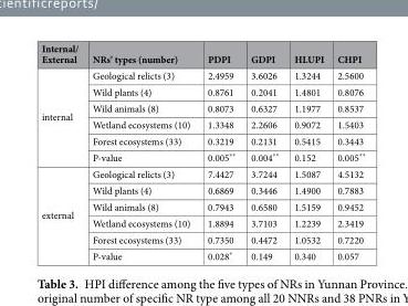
<table><thead><tr><td>Internal/ External</td><td>NRs’ types (number)</td><td>PDPI</td><td>GDPI</td><td>HLUPI</td><td>CHPI</td></tr></thead><tbody><tr><td rowspan="6">internal</td><td>Geological relicts (3)</td><td>2.4959</td><td>3.6026</td><td>1.3244</td><td>2.5600</td></tr><tr><td>Wild plants (4)</td><td>0.8761</td><td>0.2041</td><td>1.4801</td><td>0.8076</td></tr><tr><td>Wild animals (8)</td><td>0.8073</td><td>0.6327</td><td>1.1977</td><td>0.8537</td></tr><tr><td>Wetland ecosystems (10)</td><td>1.3348</td><td>2.2606</td><td>0.9072</td><td>1.5403</td></tr><tr><td>Forest ecosystems (33)</td><td>0.3219</td><td>0.2131</td><td>0.5415</td><td>0.3443</td></tr><tr><td>P-value</td><td>0.005**</td><td>0.004**</td><td>0.152</td><td>0.005**</td></tr><tr><td rowspan="6">external</td><td>Geological relicts (3)</td><td>7.4427</td><td>3.7244</td><td>1.5087</td><td>4.5132</td></tr><tr><td>Wild plants (4)</td><td>0.6869</td><td>0.3446</td><td>1.4900</td><td>0.7883</td></tr><tr><td>Wild animals (8)</td><td>0.7943</td><td>0.6580</td><td>1.5159</td><td>0.9452</td></tr><tr><td>Wetland ecosystems (10)</td><td>1.8894</td><td>3.7103</td><td>1.2239</td><td>2.3419</td></tr><tr><td>Forest ecosystems (33)</td><td>0.7350</td><td>0.4472</td><td>1.0532</td><td>0.7220</td></tr><tr><td>P-value</td><td>0.028*</td><td>0.149</td><td>0.340</td><td>0.057</td></tr></tbody></table>